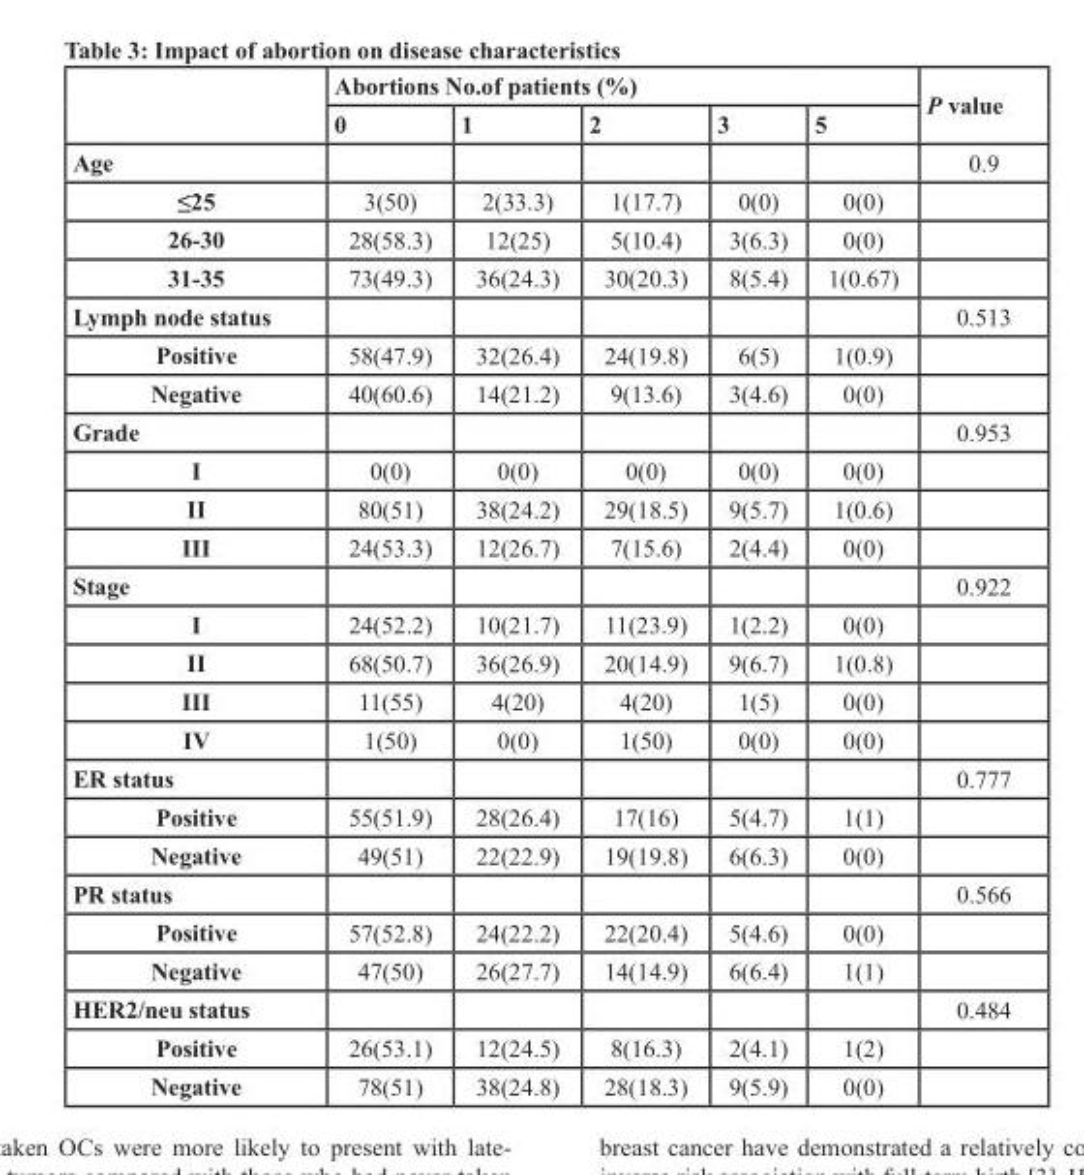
<table><thead><tr><td rowspan="2"></td><td colspan="5">Abortions No.of patients (%)</td><td rowspan="2">P value</td></tr><tr><td>0</td><td>1</td><td>2</td><td>3</td><td>5</td></tr></thead><tbody><tr><td>Age</td><td></td><td></td><td></td><td></td><td></td><td>0.9</td></tr><tr><td>≤25</td><td>3(50)</td><td>2(33.3)</td><td>1(17.7)</td><td>0(0)</td><td>0(0)</td><td></td></tr><tr><td>26-30</td><td>28(58.3)</td><td>12(25)</td><td>5(10.4)</td><td>3(6.3)</td><td>0(0)</td><td></td></tr><tr><td>31-35</td><td>73(49.3)</td><td>36(24.3)</td><td>30(20.3)</td><td>8(5.4)</td><td>1(0.67)</td><td></td></tr><tr><td>Lymph node status</td><td></td><td></td><td></td><td></td><td></td><td>0.513</td></tr><tr><td>Positive</td><td>58(47.9)</td><td>32(26.4)</td><td>24(19.8)</td><td>6(5)</td><td>1(0.9)</td><td></td></tr><tr><td>Negative</td><td>40(60.6)</td><td>14(21.2)</td><td>9(13.6)</td><td>3(4.6)</td><td>0(0)</td><td></td></tr><tr><td>Grade</td><td></td><td></td><td></td><td></td><td></td><td>0.953</td></tr><tr><td>I</td><td>0(0)</td><td>0(0)</td><td>0(0)</td><td>0(0)</td><td>0(0)</td><td></td></tr><tr><td>II</td><td>80(51)</td><td>38(24.2)</td><td>29(18.5)</td><td>9(5.7)</td><td>1(0.6)</td><td></td></tr><tr><td>III</td><td>24(53.3)</td><td>12(26.7)</td><td>7(15.6)</td><td>2(4.4)</td><td>0(0)</td><td></td></tr><tr><td>Stage</td><td></td><td></td><td></td><td></td><td></td><td>0.922</td></tr><tr><td>I</td><td>24(52.2)</td><td>10(21.7)</td><td>11(23.9)</td><td>1(2.2)</td><td>0(0)</td><td></td></tr><tr><td>II</td><td>68(50.7)</td><td>36(26.9)</td><td>20(14.9)</td><td>9(6.7)</td><td>1(0.8)</td><td></td></tr><tr><td>III</td><td>11(55)</td><td>4(20)</td><td>4(20)</td><td>1(5)</td><td>0(0)</td><td></td></tr><tr><td>IV</td><td>1(50)</td><td>0(0)</td><td>1(50)</td><td>0(0)</td><td>0(0)</td><td></td></tr><tr><td>ER status</td><td></td><td></td><td></td><td></td><td></td><td>0.777</td></tr><tr><td>Positive</td><td>55(51.9)</td><td>28(26.4)</td><td>17(16)</td><td>5(4.7)</td><td>1(1)</td><td></td></tr><tr><td>Negative</td><td>49(51)</td><td>22(22.9)</td><td>19(19.8)</td><td>6(6.3)</td><td>0(0)</td><td></td></tr><tr><td>PR status</td><td></td><td></td><td></td><td></td><td></td><td>0.566</td></tr><tr><td>Positive</td><td>57(52.8)</td><td>24(22.2)</td><td>22(20.4)</td><td>5(4.6)</td><td>0(0)</td><td></td></tr><tr><td>Negative</td><td>47(50)</td><td>26(27.7)</td><td>14(14.9)</td><td>6(6.4)</td><td>1(1)</td><td></td></tr><tr><td>HER2/neu status</td><td></td><td></td><td></td><td></td><td></td><td>0.484</td></tr><tr><td>Positive</td><td>26(53.1)</td><td>12(24.5)</td><td>8(16.3)</td><td>2(4.1)</td><td>1(2)</td><td></td></tr><tr><td>Negative</td><td>78(51)</td><td>38(24.8)</td><td>28(18.3)</td><td>9(5.9)</td><td>0(0)</td><td></td></tr></tbody></table>